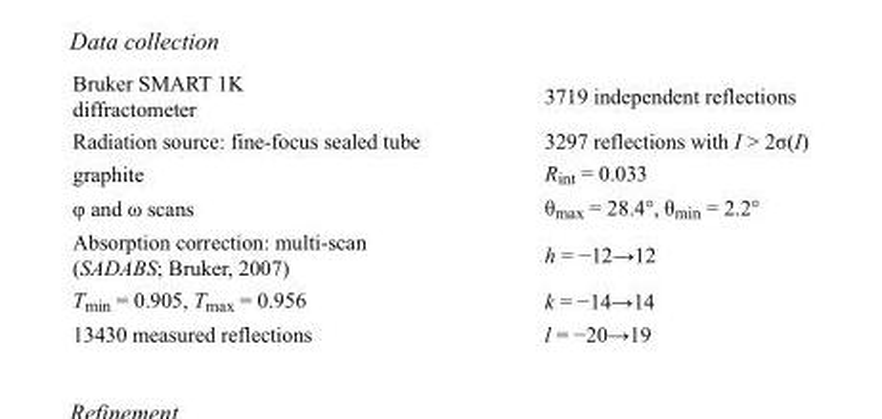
<table><tbody><tr><td>Bruker SMART 1K diffractometer</td><td>3719 independent reflections</td></tr><tr><td>Radiation source: fine-focus sealed tube</td><td>3297 reflections with I &gt; 2σ(I)</td></tr><tr><td>graphite</td><td>R<sub>int</sub> = 0.033</td></tr><tr><td>φ and ω scans</td><td>θ<sub>max</sub> = 28.4°, θ<sub>min</sub> = 2.2°</td></tr><tr><td>Absorption correction: multi-scan (SADABS; Bruker, 2007)</td><td>h = −12→12</td></tr><tr><td>T<sub>min</sub> = 0.905, T<sub>max</sub> = 0.956</td><td>k = −14→14</td></tr><tr><td>13430 measured reflections</td><td>l = −20→19</td></tr></tbody></table>